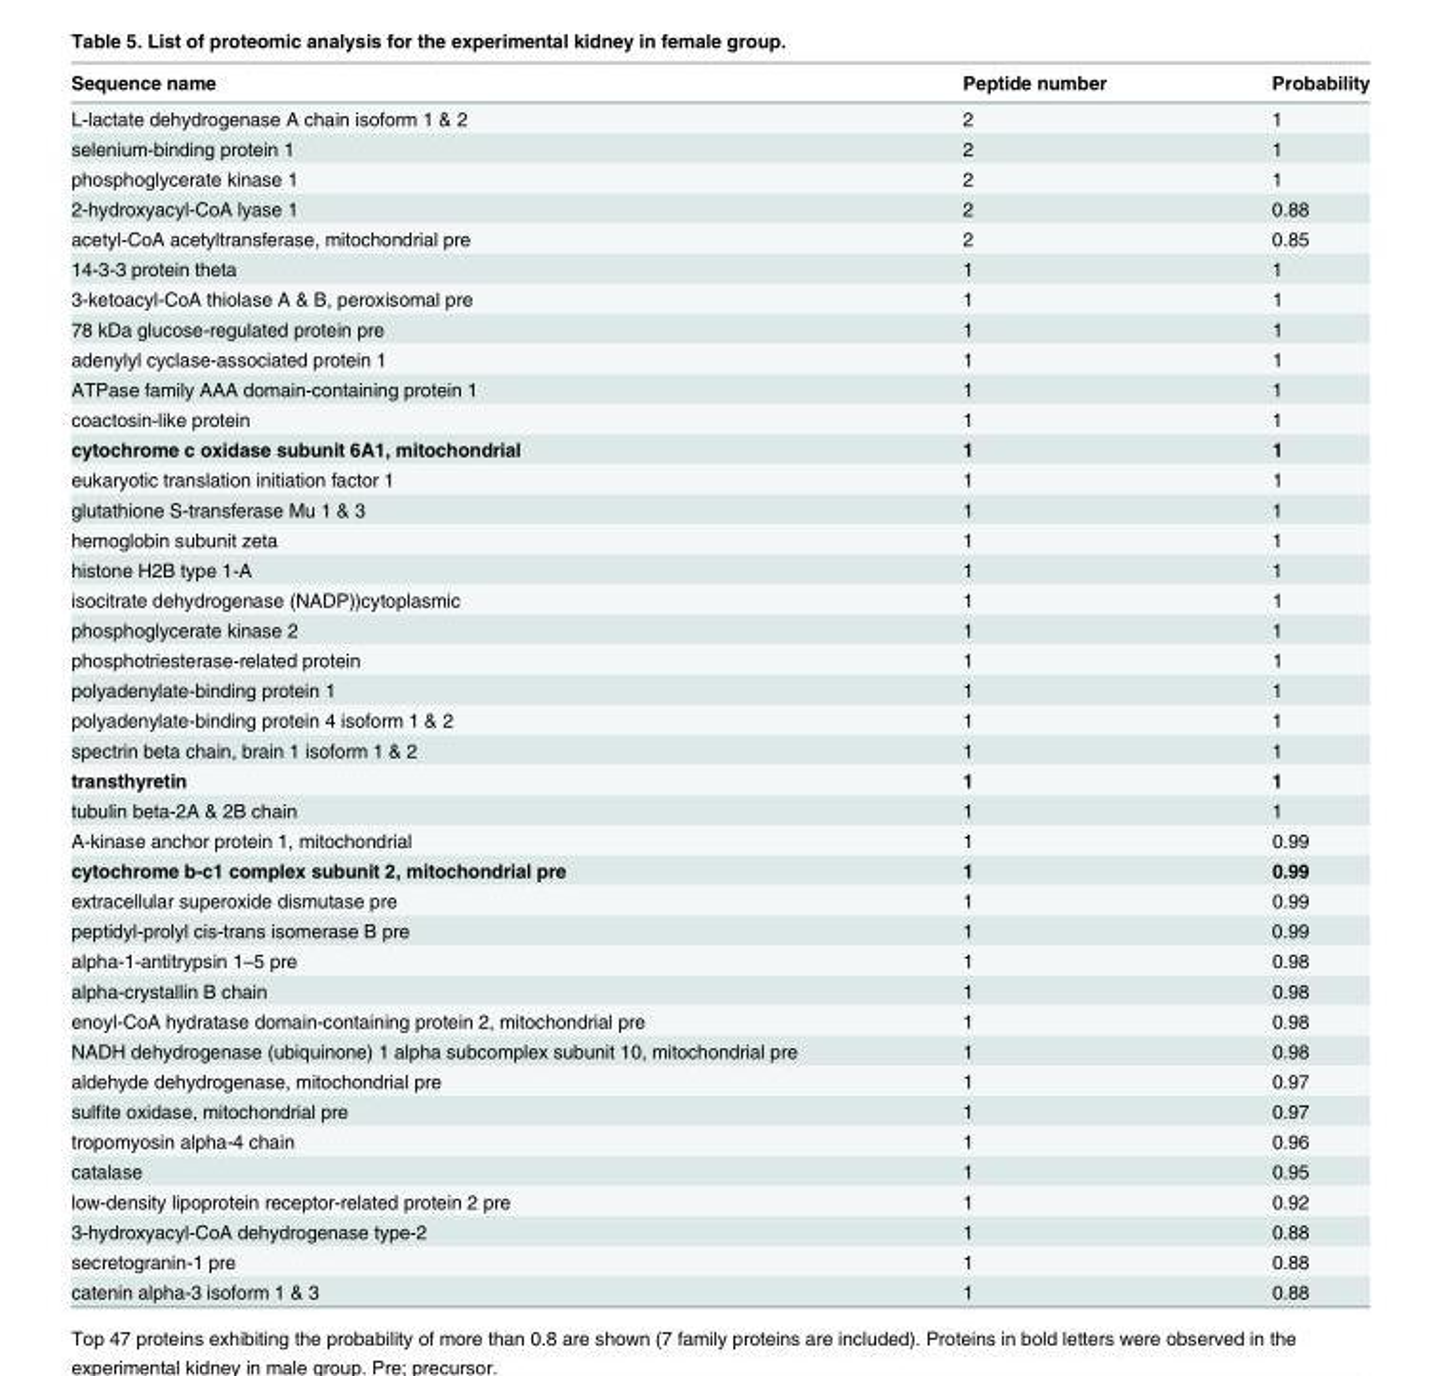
<table><thead><tr><td>Sequence name</td><td>Peptide number</td><td>Probability</td></tr></thead><tbody><tr><td>L-lactate dehydrogenase A chain isoform 1 &amp; 2</td><td>2</td><td>1</td></tr><tr><td>selenium-binding protein 1</td><td>2</td><td>1</td></tr><tr><td>phosphoglycerate kinase 1</td><td>2</td><td>1</td></tr><tr><td>2-hydroxyacyl-CoA lyase 1</td><td>2</td><td>0.88</td></tr><tr><td>acetyl-CoA acetyltransferase, mitochondrial pre</td><td>2</td><td>0.85</td></tr><tr><td>14-3-3 protein theta</td><td>1</td><td>1</td></tr><tr><td>3-ketoacyl-CoA thiolase A &amp; B, peroxisomal pre</td><td>1</td><td>1</td></tr><tr><td>78 kDa glucose-regulated protein pre</td><td>1</td><td>1</td></tr><tr><td>adenylyl cyclase-associated protein 1</td><td>1</td><td>1</td></tr><tr><td>ATPase family AAA domain-containing protein 1</td><td>1</td><td>1</td></tr><tr><td>coactosin-like protein</td><td>1</td><td>1</td></tr><tr><td>cytochrome c oxidase subunit 6A1, mitochondrial</td><td>1</td><td>1</td></tr><tr><td>eukaryotic translation initiation factor 1</td><td>1</td><td>1</td></tr><tr><td>glutathione S-transferase Mu 1 &amp; 3</td><td>1</td><td>1</td></tr><tr><td>hemoglobin subunit zeta</td><td>1</td><td>1</td></tr><tr><td>histone H2B type 1-A</td><td>1</td><td>1</td></tr><tr><td>isocitrate dehydrogenase (NADP))cytoplasmic</td><td>1</td><td>1</td></tr><tr><td>phosphoglycerate kinase 2</td><td>1</td><td>1</td></tr><tr><td>phosphotriesterase-related protein</td><td>1</td><td>1</td></tr><tr><td>polyadenylate-binding protein 1</td><td>1</td><td>1</td></tr><tr><td>polyadenylate-binding protein 4 isoform 1 &amp; 2</td><td>1</td><td>1</td></tr><tr><td>spectrin beta chain, brain 1 isoform 1 &amp; 2</td><td>1</td><td>1</td></tr><tr><td>transthyretin</td><td>1</td><td>1</td></tr><tr><td>tubulin beta-2A &amp; 2B chain</td><td>1</td><td>1</td></tr><tr><td>A-kinase anchor protein 1, mitochondrial</td><td>1</td><td>0.99</td></tr><tr><td>cytochrome b-c1 complex subunit 2, mitochondrial pre</td><td>1</td><td>0.99</td></tr><tr><td>extracellular superoxide dismutase pre</td><td>1</td><td>0.99</td></tr><tr><td>peptidyl-prolyl cis-trans isomerase B pre</td><td>1</td><td>0.99</td></tr><tr><td>alpha-1-antitrypsin 1–5 pre</td><td>1</td><td>0.98</td></tr><tr><td>alpha-crystallin B chain</td><td>1</td><td>0.98</td></tr><tr><td>enoyl-CoA hydratase domain-containing protein 2, mitochondrial pre</td><td>1</td><td>0.98</td></tr><tr><td>NADH dehydrogenase (ubiquinone) 1 alpha subcomplex subunit 10, mitochondrial pre</td><td>1</td><td>0.98</td></tr><tr><td>aldehyde dehydrogenase, mitochondrial pre</td><td>1</td><td>0.97</td></tr><tr><td>sulfite oxidase, mitochondrial pre</td><td>1</td><td>0.97</td></tr><tr><td>tropomyosin alpha-4 chain</td><td>1</td><td>0.96</td></tr><tr><td>catalase</td><td>1</td><td>0.95</td></tr><tr><td>low-density lipoprotein receptor-related protein 2 pre</td><td>1</td><td>0.92</td></tr><tr><td>3-hydroxyacyl-CoA dehydrogenase type-2</td><td>1</td><td>0.88</td></tr><tr><td>secretogranin-1 pre</td><td>1</td><td>0.88</td></tr><tr><td>catenin alpha-3 isoform 1 &amp; 3</td><td>1</td><td>0.88</td></tr></tbody></table>